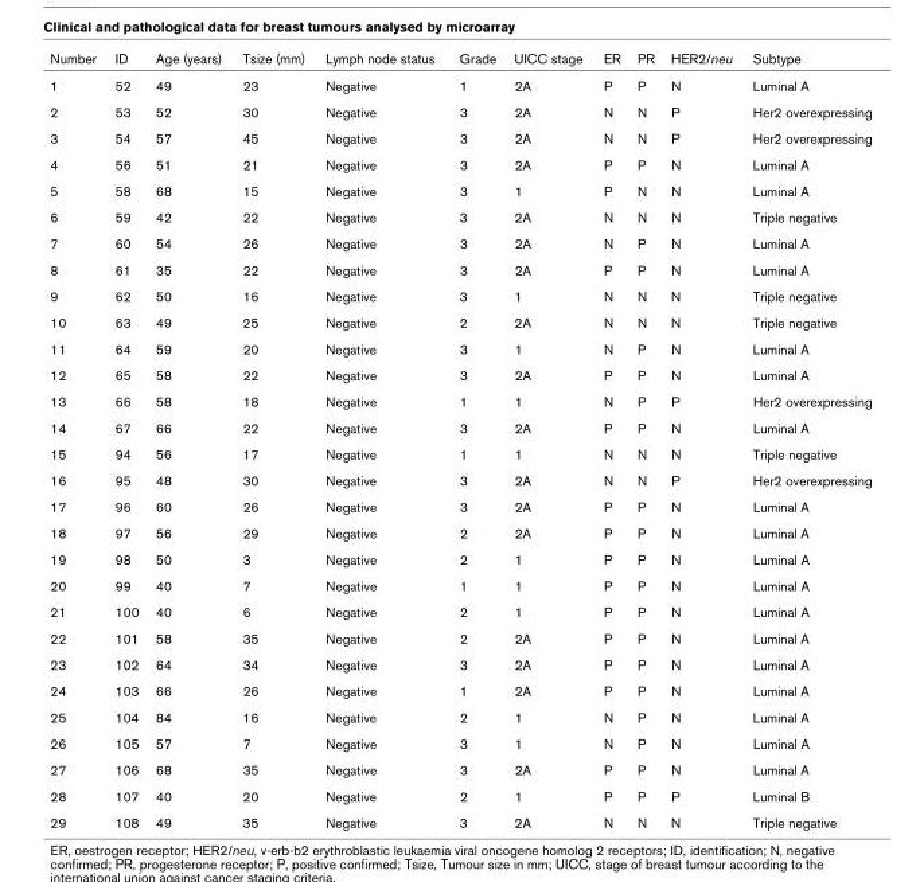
<table><thead><tr><td>Number</td><td>ID</td><td>Age (years)</td><td>Tsize (mm)</td><td>Lymph node status</td><td>Grade</td><td>UICC stage</td><td>ER</td><td>PR</td><td>HER2/neu</td><td>Subtype</td></tr></thead><tbody><tr><td>1</td><td>52</td><td>49</td><td>23</td><td>Negative</td><td>1</td><td>2A</td><td>P</td><td>P</td><td>N</td><td>Luminal A</td></tr><tr><td>2</td><td>53</td><td>52</td><td>30</td><td>Negative</td><td>3</td><td>2A</td><td>N</td><td>N</td><td>P</td><td>Her2 overexpressing</td></tr><tr><td>3</td><td>54</td><td>57</td><td>45</td><td>Negative</td><td>3</td><td>2A</td><td>N</td><td>N</td><td>P</td><td>Her2 overexpressing</td></tr><tr><td>4</td><td>56</td><td>51</td><td>21</td><td>Negative</td><td>3</td><td>2A</td><td>P</td><td>P</td><td>N</td><td>Luminal A</td></tr><tr><td>5</td><td>58</td><td>68</td><td>15</td><td>Negative</td><td>3</td><td>1</td><td>P</td><td>N</td><td>N</td><td>Luminal A</td></tr><tr><td>6</td><td>59</td><td>42</td><td>22</td><td>Negative</td><td>3</td><td>2A</td><td>N</td><td>N</td><td>N</td><td>Triple negative</td></tr><tr><td>7</td><td>60</td><td>54</td><td>26</td><td>Negative</td><td>3</td><td>2A</td><td>N</td><td>P</td><td>N</td><td>Luminal A</td></tr><tr><td>8</td><td>61</td><td>35</td><td>22</td><td>Negative</td><td>3</td><td>2A</td><td>P</td><td>P</td><td>N</td><td>Luminal A</td></tr><tr><td>9</td><td>62</td><td>50</td><td>16</td><td>Negative</td><td>3</td><td>1</td><td>N</td><td>N</td><td>N</td><td>Triple negative</td></tr><tr><td>10</td><td>63</td><td>49</td><td>25</td><td>Negative</td><td>2</td><td>2A</td><td>N</td><td>N</td><td>N</td><td>Triple negative</td></tr><tr><td>11</td><td>64</td><td>59</td><td>20</td><td>Negative</td><td>3</td><td>1</td><td>N</td><td>P</td><td>N</td><td>Luminal A</td></tr><tr><td>12</td><td>65</td><td>58</td><td>22</td><td>Negative</td><td>3</td><td>2A</td><td>P</td><td>P</td><td>N</td><td>Luminal A</td></tr><tr><td>13</td><td>66</td><td>58</td><td>18</td><td>Negative</td><td>1</td><td>1</td><td>N</td><td>P</td><td>P</td><td>Her2 overexpressing</td></tr><tr><td>14</td><td>67</td><td>66</td><td>22</td><td>Negative</td><td>3</td><td>2A</td><td>P</td><td>P</td><td>N</td><td>Luminal A</td></tr><tr><td>15</td><td>94</td><td>56</td><td>17</td><td>Negative</td><td>1</td><td>1</td><td>N</td><td>N</td><td>N</td><td>Triple negative</td></tr><tr><td>16</td><td>95</td><td>48</td><td>30</td><td>Negative</td><td>3</td><td>2A</td><td>N</td><td>N</td><td>P</td><td>Her2 overexpressing</td></tr><tr><td>17</td><td>96</td><td>60</td><td>26</td><td>Negative</td><td>3</td><td>2A</td><td>P</td><td>P</td><td>N</td><td>Luminal A</td></tr><tr><td>18</td><td>97</td><td>56</td><td>29</td><td>Negative</td><td>2</td><td>2A</td><td>P</td><td>P</td><td>N</td><td>Luminal A</td></tr><tr><td>19</td><td>98</td><td>50</td><td>3</td><td>Negative</td><td>2</td><td>1</td><td>P</td><td>P</td><td>N</td><td>Luminal A</td></tr><tr><td>20</td><td>99</td><td>40</td><td>7</td><td>Negative</td><td>1</td><td>1</td><td>P</td><td>P</td><td>N</td><td>Luminal A</td></tr><tr><td>21</td><td>100</td><td>40</td><td>6</td><td>Negative</td><td>2</td><td>1</td><td>P</td><td>P</td><td>N</td><td>Luminal A</td></tr><tr><td>22</td><td>101</td><td>58</td><td>35</td><td>Negative</td><td>2</td><td>2A</td><td>P</td><td>P</td><td>N</td><td>Luminal A</td></tr><tr><td>23</td><td>102</td><td>64</td><td>34</td><td>Negative</td><td>3</td><td>2A</td><td>P</td><td>P</td><td>N</td><td>Luminal A</td></tr><tr><td>24</td><td>103</td><td>66</td><td>26</td><td>Negative</td><td>1</td><td>2A</td><td>P</td><td>P</td><td>N</td><td>Luminal A</td></tr><tr><td>25</td><td>104</td><td>84</td><td>16</td><td>Negative</td><td>2</td><td>1</td><td>N</td><td>P</td><td>N</td><td>Luminal A</td></tr><tr><td>26</td><td>105</td><td>57</td><td>7</td><td>Negative</td><td>3</td><td>1</td><td>N</td><td>P</td><td>N</td><td>Luminal A</td></tr><tr><td>27</td><td>106</td><td>68</td><td>35</td><td>Negative</td><td>3</td><td>2A</td><td>P</td><td>P</td><td>N</td><td>Luminal A</td></tr><tr><td>28</td><td>107</td><td>40</td><td>20</td><td>Negative</td><td>2</td><td>1</td><td>P</td><td>P</td><td>P</td><td>Luminal B</td></tr><tr><td>29</td><td>108</td><td>49</td><td>35</td><td>Negative</td><td>3</td><td>2A</td><td>N</td><td>N</td><td>N</td><td>Triple negative</td></tr></tbody></table>